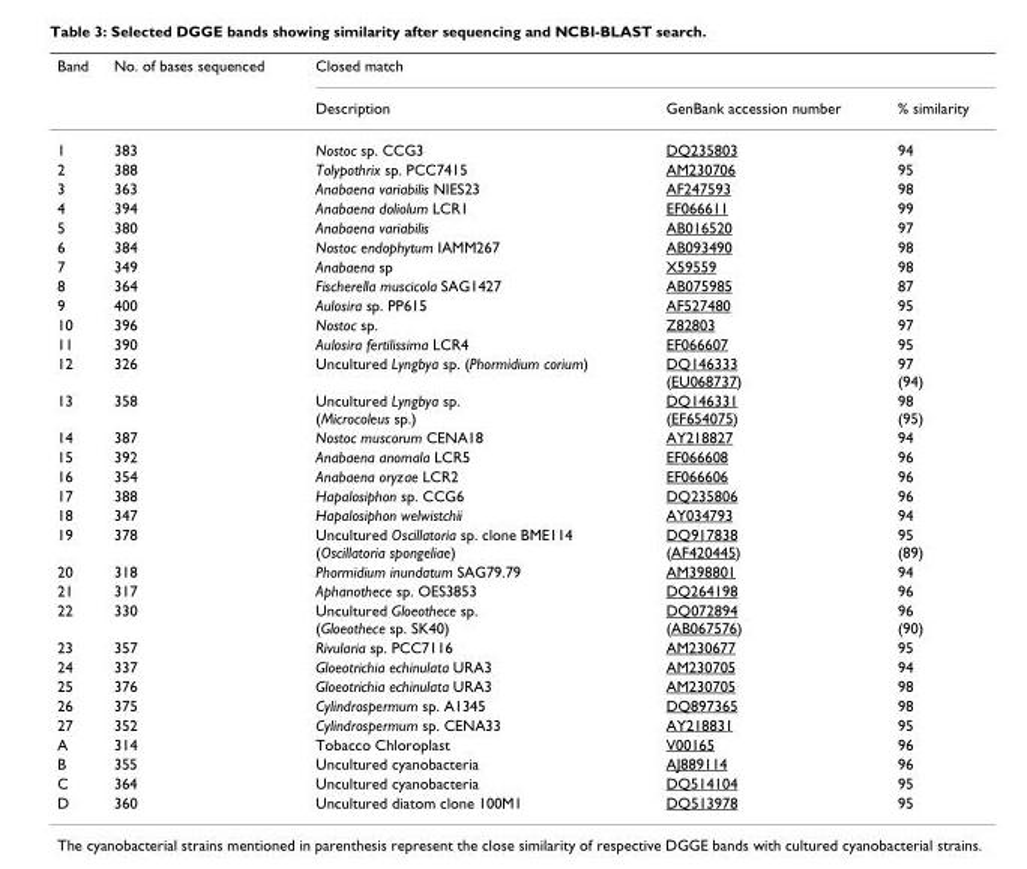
<table><thead><tr><td rowspan="2">Band</td><td rowspan="2">No. of bases sequenced</td><td colspan="3">Closed match</td></tr><tr><td>Description</td><td>GenBank accession number</td><td>% similarity</td></tr></thead><tbody><tr><td>1</td><td>383</td><td>Nostoc sp. CCG3</td><td>DQ235803</td><td>94</td></tr><tr><td>2</td><td>388</td><td>Tolypothrix sp. PCC7415</td><td>AM230706</td><td>95</td></tr><tr><td>3</td><td>363</td><td>Anabaena variabilis NIES23</td><td>AF247593</td><td>98</td></tr><tr><td>4</td><td>394</td><td>Anabaena doliolum LCR1</td><td>EF066611</td><td>99</td></tr><tr><td>5</td><td>380</td><td>Anabaena variabilis</td><td>AB016520</td><td>97</td></tr><tr><td>6</td><td>384</td><td>Nostoc endophytum IAMM267</td><td>AB093490</td><td>98</td></tr><tr><td>7</td><td>349</td><td>Anabaena sp</td><td>X59559</td><td>98</td></tr><tr><td>8</td><td>364</td><td>Fischerella muscicola SAG1427</td><td>AB075985</td><td>87</td></tr><tr><td>9</td><td>400</td><td>Aulosira sp. PP615</td><td>AF527480</td><td>95</td></tr><tr><td>10</td><td>396</td><td>Nostoc sp.</td><td>Z82803</td><td>97</td></tr><tr><td>11</td><td>390</td><td>Aulosira fertilissima LCR4</td><td>EF066607</td><td>95</td></tr><tr><td>12</td><td>326</td><td>Uncultured Lyngbya sp. (Phormidium corium)</td><td>DQ146333 (EU068737)</td><td>97 (94)</td></tr><tr><td>13</td><td>358</td><td>Uncultured Lyngbya sp. (Microcoleus sp.)</td><td>DQ146331 (EF654075)</td><td>98 (95)</td></tr><tr><td>14</td><td>387</td><td>Nostoc muscorum CENA18</td><td>AY218827</td><td>94</td></tr><tr><td>15</td><td>392</td><td>Anabaena anomala LCR5</td><td>EF066608</td><td>96</td></tr><tr><td>16</td><td>354</td><td>Anabaena oryzae LCR2</td><td>EF066606</td><td>96</td></tr><tr><td>17</td><td>388</td><td>Hapalosiphon sp. CCG6</td><td>DQ235806</td><td>96</td></tr><tr><td>18</td><td>347</td><td>Hapalosiphon welwistchii</td><td>AY034793</td><td>94</td></tr><tr><td>19</td><td>378</td><td>Uncultured Oscillatoria sp. clone BME114 (Oscillatoria spongeliae)</td><td>DQ917838 (AF420445)</td><td>95 (89)</td></tr><tr><td>20</td><td>318</td><td>Phormidium inundatum SAG79.79</td><td>AM398801</td><td>94</td></tr><tr><td>21</td><td>317</td><td>Aphanothece sp. OES3853</td><td>DQ264198</td><td>96</td></tr><tr><td>22</td><td>330</td><td>Uncultured Gloeothece sp. (Gloeothece sp. SK40)</td><td>DQ072894 (AB067576)</td><td>96 (90)</td></tr><tr><td>23</td><td>357</td><td>Rivularia sp. PCC7116</td><td>AM230677</td><td>95</td></tr><tr><td>24</td><td>337</td><td>Gloeotrichia echinulata URA3</td><td>AM230705</td><td>94</td></tr><tr><td>25</td><td>376</td><td>Gloeotrichia echinulata URA3</td><td>AM230705</td><td>98</td></tr><tr><td>26</td><td>375</td><td>Cylindrospermum sp. A1345</td><td>DQ897365</td><td>98</td></tr><tr><td>27</td><td>352</td><td>Cylindrospermum sp. CENA33</td><td>AY218831</td><td>95</td></tr><tr><td>A</td><td>314</td><td>Tobacco Chloroplast</td><td>V00165</td><td>96</td></tr><tr><td>B</td><td>355</td><td>Uncultured cyanobacteria</td><td>AJ889114</td><td>96</td></tr><tr><td>C</td><td>364</td><td>Uncultured cyanobacteria</td><td>DQ514104</td><td>95</td></tr><tr><td>D</td><td>360</td><td>Uncultured diatom clone 100M1</td><td>DQ513978</td><td>95</td></tr></tbody></table>